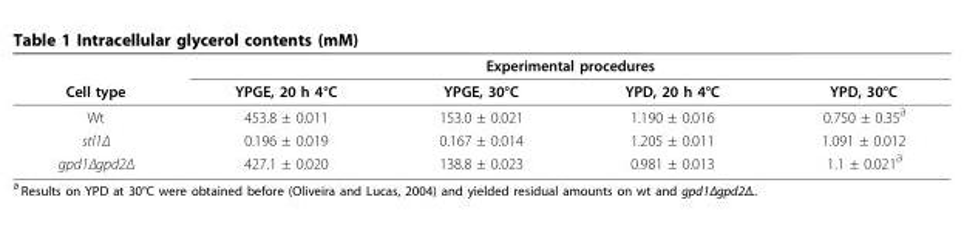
<table><thead><tr><td rowspan="2">Cell type</td><td colspan="4">Experimental procedures</td></tr><tr><td>YPGE, 20 h 4°C</td><td>YPGE, 30°C</td><td>YPD, 20 h 4°C</td><td>YPD, 30°C</td></tr></thead><tbody><tr><td>Wt</td><td>453.8 ± 0.011</td><td>153.0 ± 0.021</td><td>1.190 ± 0.016</td><td>0.750 ± 0.35<sup>∂</sup></td></tr><tr><td>stl1Δ</td><td>0.196 ± 0.019</td><td>0.167 ± 0.014</td><td>1.205 ± 0.011</td><td>1.091 ± 0.012</td></tr><tr><td>gpd1Δgpd2Δ</td><td>427.1 ± 0.020</td><td>138.8 ± 0.023</td><td>0.981 ± 0.013</td><td>1.1 ± 0.021<sup>∂</sup></td></tr></tbody></table>